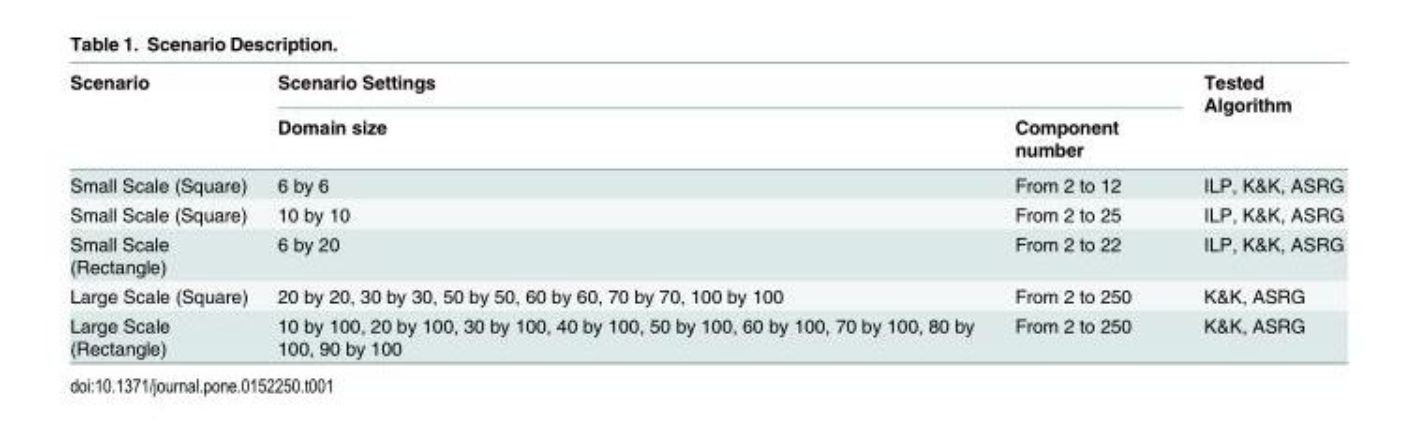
<table><thead><tr><td rowspan="2">Scenario</td><td colspan="2">Scenario Settings</td><td rowspan="2">Tested Algorithm</td></tr><tr><td>Domain size</td><td>Component number</td></tr></thead><tbody><tr><td>Small Scale (Square)</td><td>6 by 6</td><td>From 2 to 12</td><td>ILP, K&amp;K, ASRG</td></tr><tr><td>Small Scale (Square)</td><td>10 by 10</td><td>From 2 to 25</td><td>ILP, K&amp;K, ASRG</td></tr><tr><td>Small Scale (Rectangle)</td><td>6 by 20</td><td>From 2 to 22</td><td>ILP, K&amp;K, ASRG</td></tr><tr><td>Large Scale (Square)</td><td>20 by 20, 30 by 30, 50 by 50, 60 by 60, 70 by 70, 100 by 100</td><td>From 2 to 250</td><td>K&amp;K, ASRG</td></tr><tr><td>Large Scale (Rectangle)</td><td>10 by 100, 20 by 100, 30 by 100, 40 by 100, 50 by 100, 60 by 100, 70 by 100, 80 by 100, 90 by 100</td><td>From 2 to 250</td><td>K&amp;K, ASRG</td></tr></tbody></table>